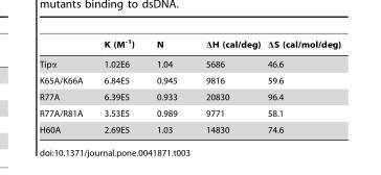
<table><thead><tr><td></td><td>K (M<sup>-1</sup>)</td><td>N</td><td>ΔH (cal/deg)</td><td>ΔS (cal/mol/deg)</td></tr></thead><tbody><tr><td>Tipα</td><td>1.02E6</td><td>1.04</td><td>5686</td><td>46.6</td></tr><tr><td>K65A/K66A</td><td>6.84E5</td><td>0.945</td><td>9816</td><td>59.6</td></tr><tr><td>R77A</td><td>6.39E5</td><td>0.933</td><td>20830</td><td>96.4</td></tr><tr><td>R77A/R81A</td><td>3.53E5</td><td>0.989</td><td>9771</td><td>58.1</td></tr><tr><td>H60A</td><td>2.69E5</td><td>1.03</td><td>14830</td><td>74.6</td></tr></tbody></table>